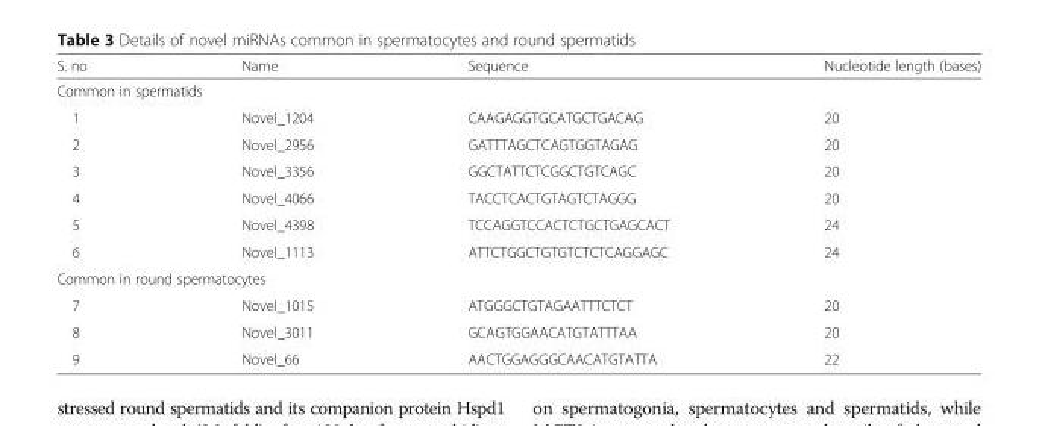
<table><thead><tr><td>S. no</td><td>Name</td><td>Sequence</td><td>Nucleotide length (bases)</td></tr></thead><tbody><tr><td colspan="4">Common in spermatids</td></tr><tr><td>1</td><td>Novel_1204</td><td>CAAGAGGTGCATGCTGACAG</td><td>20</td></tr><tr><td>2</td><td>Novel_2956</td><td>GATTTAGCTCAGTGGTAGAG</td><td>20</td></tr><tr><td>3</td><td>Novel_3356</td><td>GGCTATTCTCGGCTGTCAGC</td><td>20</td></tr><tr><td>4</td><td>Novel_4066</td><td>TACCTCACTGTAGTCTAGGG</td><td>20</td></tr><tr><td>5</td><td>Novel_4398</td><td>TCCAGGTCCACTCTGCTGAGCACT</td><td>24</td></tr><tr><td>6</td><td>Novel_1113</td><td>ATTCTGGCTGTGTCTCTCAGGAGC</td><td>24</td></tr><tr><td colspan="4">Common in round spermatocytes</td></tr><tr><td>7</td><td>Novel_1015</td><td>ATGGGCTGTAGAATTTCTCT</td><td>20</td></tr><tr><td>8</td><td>Novel_3011</td><td>GCAGTGGAACATGTATTTAA</td><td>20</td></tr><tr><td>9</td><td>Novel_66</td><td>AACTGGAGGGCAACATGTATTA</td><td>22</td></tr></tbody></table>